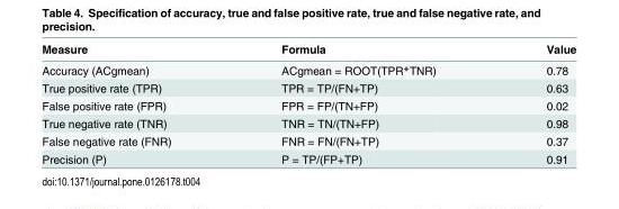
<table><thead><tr><td>Measure</td><td>Formula</td><td>Value</td></tr></thead><tbody><tr><td>Accuracy (ACgmean)</td><td>ACgmean = ROOT(TPR*TNR)</td><td>0.78</td></tr><tr><td>True positive rate (TPR)</td><td>TPR = TP/(FN+TP)</td><td>0.63</td></tr><tr><td>False positive rate (FPR)</td><td>FPR = FP/(TN+FP)</td><td>0.02</td></tr><tr><td>True negative rate (TNR)</td><td>TNR = TN/(TN+FP)</td><td>0.98</td></tr><tr><td>False negative rate (FNR)</td><td>FNR = FN/(FN+TP)</td><td>0.37</td></tr><tr><td>Precision (P)</td><td>P = TP/(FP+TP)</td><td>0.91</td></tr></tbody></table>